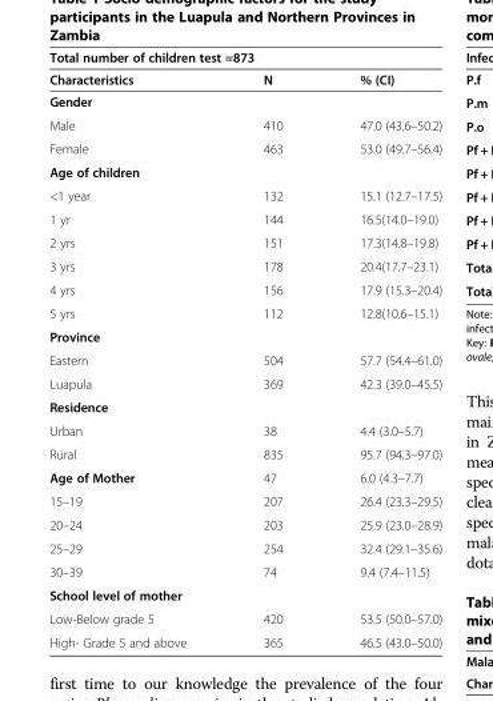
<table><thead><tr><td colspan="3">Total number of children test =873</td></tr><tr><td>Characteristics</td><td>N</td><td>% (CI)</td></tr></thead><tbody><tr><td colspan="3">Gender</td></tr><tr><td>Male</td><td>410</td><td>47.0 (43.6–50.2)</td></tr><tr><td>Female</td><td>463</td><td>53.0 (49.7–56.4)</td></tr><tr><td colspan="3">Age of children</td></tr><tr><td>&lt;1 year</td><td>132</td><td>15.1 (12.7–17.5)</td></tr><tr><td>1 yr</td><td>144</td><td>16.5(14.0–19.0)</td></tr><tr><td>2 yrs</td><td>151</td><td>17.3(14.8–19.8)</td></tr><tr><td>3 yrs</td><td>178</td><td>20.4(17.7–23.1)</td></tr><tr><td>4 yrs</td><td>156</td><td>17.9 (15.3–20.4)</td></tr><tr><td>5 yrs</td><td>112</td><td>12.8(10.6–15.1)</td></tr><tr><td colspan="3">Province</td></tr><tr><td>Eastern</td><td>504</td><td>57.7 (54.4–61.0)</td></tr><tr><td>Luapula</td><td>369</td><td>42.3 (39.0–45.5)</td></tr><tr><td colspan="3">Residence</td></tr><tr><td>Urban</td><td>38</td><td>4.4 (3.0–5.7)</td></tr><tr><td>Rural</td><td>835</td><td>95.7 (94.3–97.0)</td></tr><tr><td>Age of Mother</td><td>47</td><td>6.0 (4.3–7.7)</td></tr><tr><td>15–19</td><td>207</td><td>26.4 (23.3–29.5)</td></tr><tr><td>20–24</td><td>203</td><td>25.9 (23.0–28.9)</td></tr><tr><td>25–29</td><td>254</td><td>32.4 (29.1–35.6)</td></tr><tr><td>30–39</td><td>74</td><td>9.4 (7.4–11.5)</td></tr><tr><td colspan="3">School level of mother</td></tr><tr><td>Low-Below grade 5</td><td>420</td><td>53.5 (50.0–57.0)</td></tr><tr><td>High- Grade 5 and above</td><td>365</td><td>46.5 (43.0–50.0)</td></tr></tbody></table>